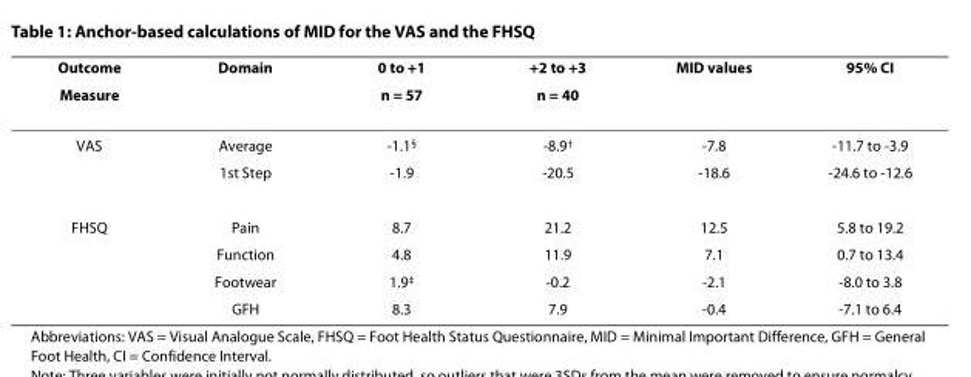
<table><thead><tr><td rowspan="2">Outcome Measure</td><td rowspan="2">Domain</td><td rowspan="2">0 to +1 n = 57</td><td rowspan="2">+2 to +3 n = 40</td><td rowspan="2">MID values</td><td rowspan="2">95% CI</td></tr><tr></tr></thead><tbody><tr><td rowspan="2">VAS</td><td>Average</td><td>-1.1<sup>§</sup></td><td>-8.9<sup>†</sup></td><td>-7.8</td><td>-11.7 to -3.9</td></tr><tr><td>1st Step</td><td>-1.9</td><td>-20.5</td><td>-18.6</td><td>-24.6 to -12.6</td></tr><tr><td rowspan="4">FHSQ</td><td>Pain</td><td>8.7</td><td>21.2</td><td>12.5</td><td>5.8 to 19.2</td></tr><tr><td>Function</td><td>4.8</td><td>11.9</td><td>7.1</td><td>0.7 to 13.4</td></tr><tr><td>Footwear</td><td>1.9<sup>‡</sup></td><td>-0.2</td><td>-2.1</td><td>-8.0 to 3.8</td></tr><tr><td>GFH</td><td>8.3</td><td>7.9</td><td>-0.4</td><td>-7.1 to 6.4</td></tr></tbody></table>